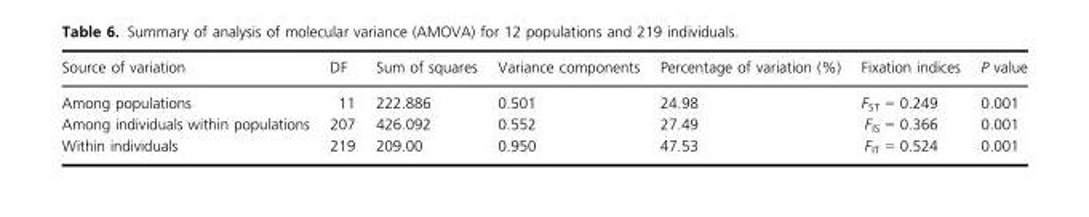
<table><thead><tr><td>Source of variation</td><td>DF</td><td>Sum of squares</td><td>Variance components</td><td>Percentage of variation (%)</td><td>Fixation indices</td><td>P value</td></tr></thead><tbody><tr><td>Among populations</td><td>11</td><td>222.886</td><td>0.501</td><td>24.98</td><td>F<sub>ST</sub> = 0.249</td><td>0.001</td></tr><tr><td>Among individuals within populations</td><td>207</td><td>426.092</td><td>0.552</td><td>27.49</td><td>F<sub>IS</sub> = 0.366</td><td>0.001</td></tr><tr><td>Within individuals</td><td>219</td><td>209.00</td><td>0.950</td><td>47.53</td><td>F<sub>IT</sub> = 0.524</td><td>0.001</td></tr></tbody></table>